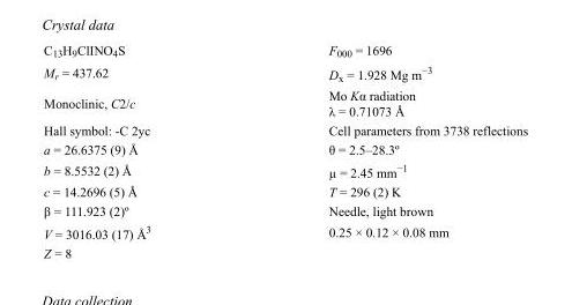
<table><tbody><tr><td>C<sub>13</sub>H<sub>9</sub>ClINO<sub>4</sub>S</td><td>F000 = 1696</td></tr><tr><td>M<sub>r</sub> = 437.62</td><td>D<sub>x</sub> = 1.928 Mg m<sup>−3</sup></td></tr><tr><td>Monoclinic, C2/c</td><td>Mo Kα radiation λ = 0.71073 Å</td></tr><tr><td>Hall symbol: -C 2yc</td><td>Cell parameters from 3738 reflections</td></tr><tr><td>a = 26.6375 (9) Å</td><td>θ = 2.5–28.3º</td></tr><tr><td>b = 8.5532 (2) Å</td><td>µ = 2.45 mm<sup>−1</sup></td></tr><tr><td>c = 14.2696 (5) Å</td><td>T = 296 (2) K</td></tr><tr><td>β = 111.923 (2)º</td><td>Needle, light brown</td></tr><tr><td>V = 3016.03 (17) Å<sup>3</sup></td><td>0.25 × 0.12 × 0.08 mm</td></tr><tr><td>Z = 8</td><td></td></tr></tbody></table>